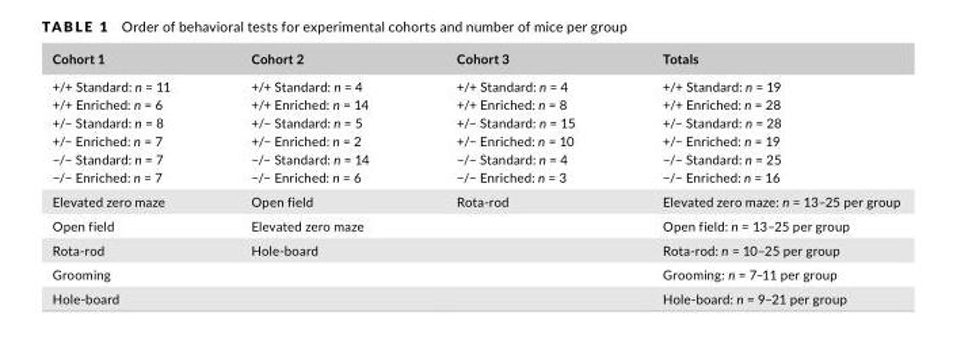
<table><thead><tr><td>Cohort 1</td><td>Cohort 2</td><td>Cohort 3</td><td>Totals</td></tr></thead><tbody><tr><td>+/+ Standard: n = 11 +/+ Enriched: n = 6 +/− Standard: n = 8 +/− Enriched: n = 7 −/− Standard: n = 7 −/− Enriched: n = 7</td><td>+/+ Standard: n = 4 +/+ Enriched: n = 14 +/− Standard: n = 5 +/− Enriched: n = 2 −/− Standard: n = 14 −/− Enriched: n = 6</td><td>+/+ Standard: n = 4 +/+ Enriched: n = 8 +/− Standard: n = 15 +/− Enriched: n = 10 −/− Standard: n = 4 −/− Enriched: n = 3</td><td>+/+ Standard: n = 19 +/+ Enriched: n = 28 +/− Standard: n = 28 +/− Enriched: n = 19 −/− Standard: n = 25 −/− Enriched: n = 16</td></tr><tr><td>Elevated zero maze</td><td>Open field</td><td>Rota‐rod</td><td>Elevated zero maze: n = 13–25 per group</td></tr><tr><td>Open field</td><td>Elevated zero maze</td><td></td><td>Open field: n = 13–25 per group</td></tr><tr><td>Rota‐rod</td><td>Hole‐board</td><td></td><td>Rota‐rod: n = 10–25 per group</td></tr><tr><td>Grooming</td><td></td><td></td><td>Grooming: n = 7–11 per group</td></tr><tr><td>Hole‐board</td><td></td><td></td><td>Hole‐board: n = 9–21 per group</td></tr></tbody></table>